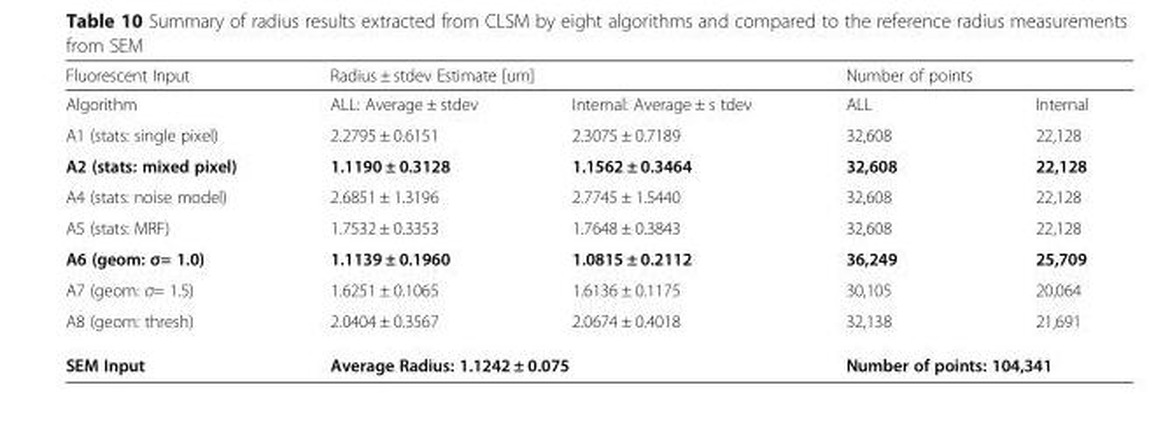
<table><thead><tr><td rowspan="2">Fluorescent Input Algorithm</td><td colspan="2">Radius ± stdev Estimate [um]</td><td colspan="2">Number of points</td></tr><tr><td>ALL: Average ± stdev</td><td>Internal: Average ± s tdev</td><td>ALL</td><td>Internal</td></tr></thead><tbody><tr><td>A1 (stats: single pixel)</td><td>2.2795 ± 0.6151</td><td>2.3075 ± 0.7189</td><td>32,608</td><td>22,128</td></tr><tr><td>A2 (stats: mixed pixel)</td><td>1.1190 ± 0.3128</td><td>1.1562 ± 0.3464</td><td>32,608</td><td>22,128</td></tr><tr><td>A4 (stats: noise model)</td><td>2.6851 ± 1.3196</td><td>2.7745 ± 1.5440</td><td>32,608</td><td>22,128</td></tr><tr><td>A5 (stats: MRF)</td><td>1.7532 ± 0.3353</td><td>1.7648 ± 0.3843</td><td>32,608</td><td>22,128</td></tr><tr><td>A6 (geom: σ= 1.0)</td><td>1.1139 ± 0.1960</td><td>1.0815 ± 0.2112</td><td>36,249</td><td>25,709</td></tr><tr><td>A7 (geom: σ= 1.5)</td><td>1.6251 ± 0.1065</td><td>1.6136 ± 0.1175</td><td>30,105</td><td>20,064</td></tr><tr><td>A8 (geom: thresh)</td><td>2.0404 ± 0.3567</td><td>2.0674 ± 0.4018</td><td>32,138</td><td>21,691</td></tr><tr><td>SEM Input</td><td colspan="2">Average Radius: 1.1242 ± 0.075</td><td colspan="2">Number of points: 104,341</td></tr></tbody></table>